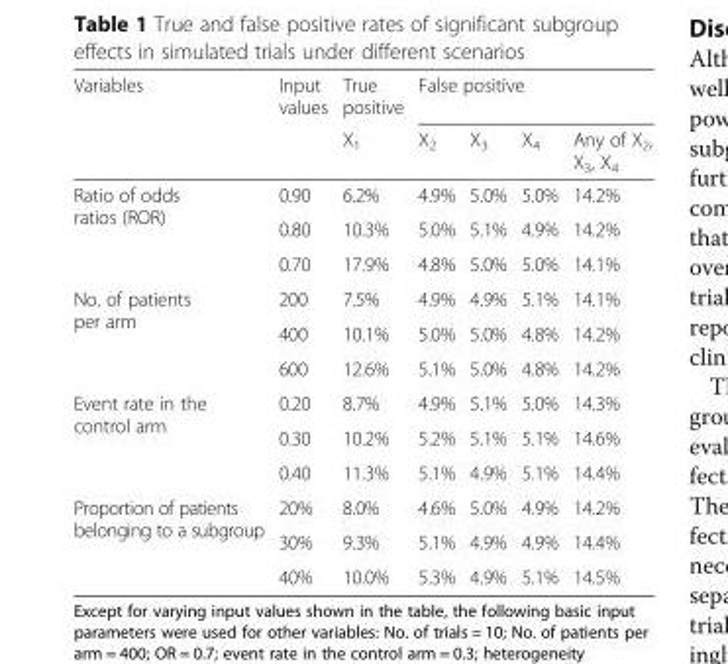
<table><thead><tr><td rowspan="2">Variables</td><td rowspan="2">Input values</td><td rowspan="2">True positive X<sub>1</sub></td><td colspan="4">False positive</td></tr><tr><td>X<sub>2</sub></td><td>X<sub>3</sub></td><td>X<sub>4</sub></td><td>Any of X<sub>2</sub>, X<sub>3</sub>, X<sub>4</sub></td></tr></thead><tbody><tr><td rowspan="3">Ratio of odds ratios (ROR)</td><td>0.90</td><td>6.2%</td><td>4.9%</td><td>5.0%</td><td>5.0%</td><td>14.2%</td></tr><tr><td>0.80</td><td>10.3%</td><td>5.0%</td><td>5.1%</td><td>4.9%</td><td>14.2%</td></tr><tr><td>0.70</td><td>17.9%</td><td>4.8%</td><td>5.0%</td><td>5.0%</td><td>14.1%</td></tr><tr><td rowspan="3">No. of patients per arm</td><td>200</td><td>7.5%</td><td>4.9%</td><td>4.9%</td><td>5.1%</td><td>14.1%</td></tr><tr><td>400</td><td>10.1%</td><td>5.0%</td><td>5.0%</td><td>4.8%</td><td>14.2%</td></tr><tr><td>600</td><td>12.6%</td><td>5.1%</td><td>5.0%</td><td>4.8%</td><td>14.2%</td></tr><tr><td rowspan="3">Event rate in the control arm</td><td>0.20</td><td>8.7%</td><td>4.9%</td><td>5.1%</td><td>5.0%</td><td>14.3%</td></tr><tr><td>0.30</td><td>10.2%</td><td>5.2%</td><td>5.1%</td><td>5.1%</td><td>14.6%</td></tr><tr><td>0.40</td><td>11.3%</td><td>5.1%</td><td>4.9%</td><td>5.1%</td><td>14.4%</td></tr><tr><td rowspan="3">Proportion of patients belonging to a subgroup</td><td>20%</td><td>8.0%</td><td>4.6%</td><td>5.0%</td><td>4.9%</td><td>14.2%</td></tr><tr><td>30%</td><td>9.3%</td><td>5.1%</td><td>4.9%</td><td>4.9%</td><td>14.4%</td></tr><tr><td>40%</td><td>10.0%</td><td>5.3%</td><td>4.9%</td><td>5.1%</td><td>14.5%</td></tr></tbody></table>